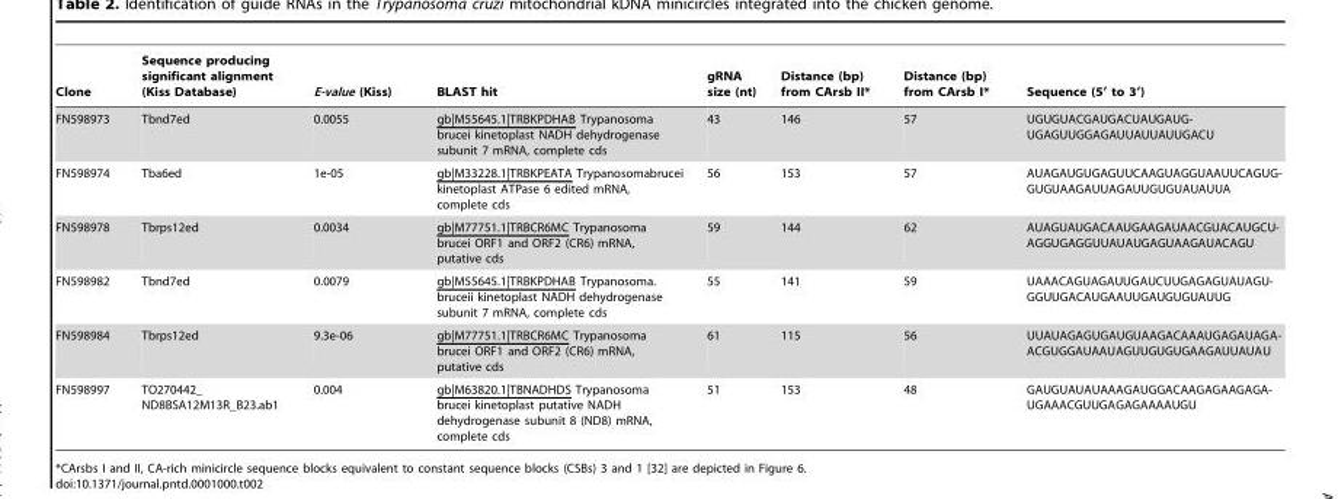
<table><thead><tr><td>Clone</td><td>Sequence producing significant alignment (Kiss Database)</td><td>E-value (Kiss)</td><td>BLAST hit</td><td>gRNA size (nt)</td><td>Distance (bp) from CArsb II*</td><td>Distance (bp) from CArsb I*</td><td>Sequence (5′ to 3′)</td></tr></thead><tbody><tr><td>FN598973</td><td>Tbnd7ed</td><td>0.0055</td><td>gb|M55645.1|TRBKPDHAB Trypanosoma brucei kinetoplast NADH dehydrogenase subunit 7 mRNA, complete cds</td><td>43</td><td>146</td><td>57</td><td>UGUGUACGAUGACUAUGAUG- UGAGUUGGAGAUUAUUAUUGACU</td></tr><tr><td>FN598974</td><td>Tba6ed</td><td>1e-05</td><td>gb|M33228.1|TRBKPEATA Trypanosomabrucei kinetoplast ATPase 6 edited mRNA, complete cds</td><td>56</td><td>153</td><td>57</td><td>AUAGAUGUGAGUUCAAGUAGGUAAUUCAGUG- GUGUAAGAUUAGAUUGUGUAUAUUA</td></tr><tr><td>FN598978</td><td>Tbrps12ed</td><td>0.0034</td><td>gb|M77751.1|TRBCR6MC Trypanosoma brucei ORF1 and ORF2 (CR6) mRNA, putative cds</td><td>59</td><td>144</td><td>62</td><td>AUAGUAUGACAAUGAAGAUAACGUACAUGCU- AGGUGAGGUUAUAUGAGUAAGAUACAGU</td></tr><tr><td>FN598982</td><td>Tbnd7ed</td><td>0.0079</td><td>gb|M55645.1|TRBKPDHAB Trypanosoma. bruceii kinetoplast NADH dehydrogenase subunit 7 mRNA, complete cds</td><td>55</td><td>141</td><td>59</td><td>UAAACAGUAGAUUGAUCUUGAGAGUAUAGU- GGUUGACAUGAAUUGAUGUGUAUUG</td></tr><tr><td>FN598984</td><td>Tbrps12ed</td><td>9.3e-06</td><td>gb|M77751.1|TRBCR6MC Trypanosoma brucei ORF1 and ORF2 (CR6) mRNA, putative cds</td><td>61</td><td>115</td><td>56</td><td>UUAUAGAGUGAUGUAAGACAAAUGAGAUAGA- ACGUGGAUAAUAGUUGUGUGAAGAUUAUAU</td></tr><tr><td>FN598997</td><td>TO270442_ ND8BSA12M13R_B23.ab1</td><td>0.004</td><td>gb|M63820.1|TBNADHDS Trypanosoma brucei kinetoplast putative NADH dehydrogenase subunit 8 (ND8) mRNA, complete cds</td><td>51</td><td>153</td><td>48</td><td>GAUGUAUAUAAAGAUGGACAAGAGAAGAGA- UGAAACGUUGAGAGAAAAUGU</td></tr></tbody></table>